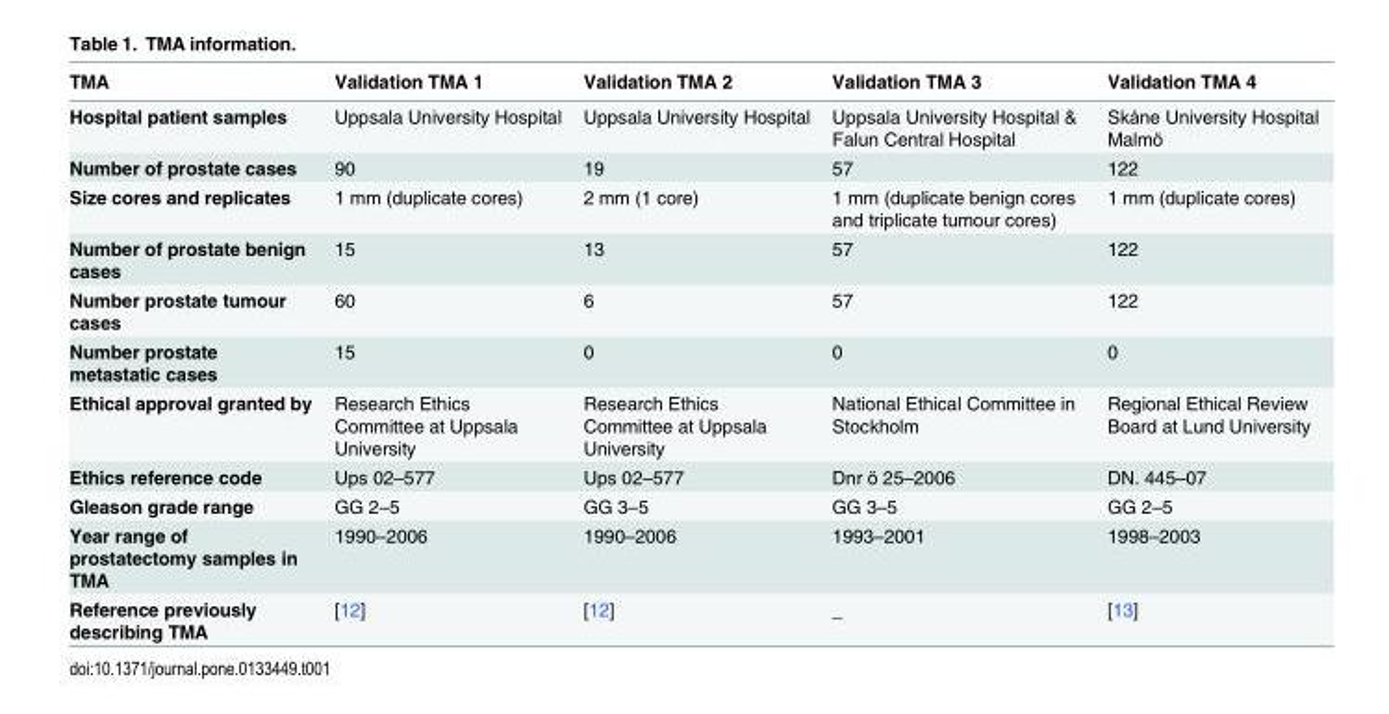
<table><thead><tr><td>TMA</td><td>Validation TMA 1</td><td>Validation TMA 2</td><td>Validation TMA 3</td><td>Validation TMA 4</td></tr></thead><tbody><tr><td>Hospital patient samples</td><td>Uppsala University Hospital</td><td>Uppsala University Hospital</td><td>Uppsala University Hospital &amp; Falun Central Hospital</td><td>Skåne University Hospital Malmö</td></tr><tr><td>Number of prostate cases</td><td>90</td><td>19</td><td>57</td><td>122</td></tr><tr><td>Size cores and replicates</td><td>1 mm (duplicate cores)</td><td>2 mm (1 core)</td><td>1 mm (duplicate benign cores and triplicate tumour cores)</td><td>1 mm (duplicate cores)</td></tr><tr><td>Number of prostate benign cases</td><td>15</td><td>13</td><td>57</td><td>122</td></tr><tr><td>Number prostate tumour cases</td><td>60</td><td>6</td><td>57</td><td>122</td></tr><tr><td>Number prostate metastatic cases</td><td>15</td><td>0</td><td>0</td><td>0</td></tr><tr><td>Ethical approval granted by</td><td>Research Ethics Committee at Uppsala University</td><td>Research Ethics Committee at Uppsala University</td><td>National Ethical Committee in Stockholm</td><td>Regional Ethical Review Board at Lund University</td></tr><tr><td>Ethics reference code</td><td>Ups 02–577</td><td>Ups 02–577</td><td>Dnr ö 25–2006</td><td>DN. 445–07</td></tr><tr><td>Gleason grade range</td><td>GG 2–5</td><td>GG 3–5</td><td>GG 3–5</td><td>GG 2–5</td></tr><tr><td>Year range of prostatectomy samples in TMA</td><td>1990–2006</td><td>1990–2006</td><td>1993–2001</td><td>1998–2003</td></tr><tr><td>Reference previously describing TMA</td><td>[12]</td><td>[12]</td><td>_</td><td>[13]</td></tr></tbody></table>